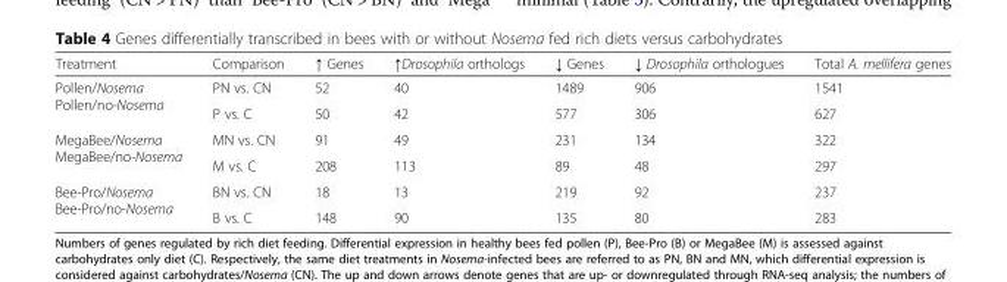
<table><thead><tr><td>Treatment</td><td>Comparison</td><td>↑ Genes</td><td>↑Drosophila orthologs</td><td>↓ Genes</td><td>↓ Drosophila orthologues</td><td>Total A. mellifera genes</td></tr></thead><tbody><tr><td rowspan="2">Pollen/Nosema Pollen/no-Nosema</td><td>PN vs. CN</td><td>52</td><td>40</td><td>1489</td><td>906</td><td>1541</td></tr><tr><td>P vs. C</td><td>50</td><td>42</td><td>577</td><td>306</td><td>627</td></tr><tr><td rowspan="2">MegaBee/Nosema MegaBee/no-Nosema</td><td>MN vs. CN</td><td>91</td><td>49</td><td>231</td><td>134</td><td>322</td></tr><tr><td>M vs. C</td><td>208</td><td>113</td><td>89</td><td>48</td><td>297</td></tr><tr><td rowspan="2">Bee-Pro/Nosema Bee-Pro/no-Nosema</td><td>BN vs. CN</td><td>18</td><td>13</td><td>219</td><td>92</td><td>237</td></tr><tr><td>B vs. C</td><td>148</td><td>90</td><td>135</td><td>80</td><td>283</td></tr></tbody></table>